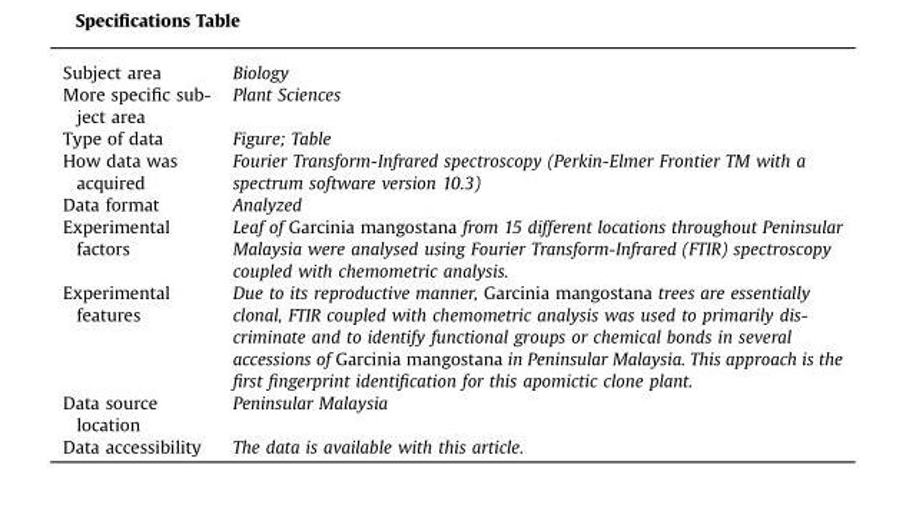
<table><thead><tr><td>Subject area</td><td>Biology</td></tr></thead><tbody><tr><td>More specific sub- ject area</td><td>Plant Sciences</td></tr><tr><td>Type of data</td><td>Figure; Table</td></tr><tr><td>How data was acquired</td><td>Fourier Transform-Infrared spectroscopy (Perkin-Elmer Frontier TM with a spectrum software version 10.3)</td></tr><tr><td>Data format</td><td>Analyzed</td></tr><tr><td>Experimental factors</td><td>Leaf of Garcinia mangostana from 15 different locations throughout Peninsular Malaysia were analysed using Fourier Transform-Infrared (FTIR) spectroscopy coupled with chemometric analysis.</td></tr><tr><td>Experimental features</td><td>Due to its reproductive manner, Garcinia mangostana trees are essentially clonal, FTIR coupled with chemometric analysis was used to primarily dis- criminate and to identify functional groups or chemical bonds in several accessions of Garcinia mangostana in Peninsular Malaysia. This approach is the first fingerprint identification for this apomictic clone plant.</td></tr><tr><td>Data source location</td><td>Peninsular Malaysia</td></tr><tr><td>Data accessibility</td><td>The data is available with this article.</td></tr></tbody></table>